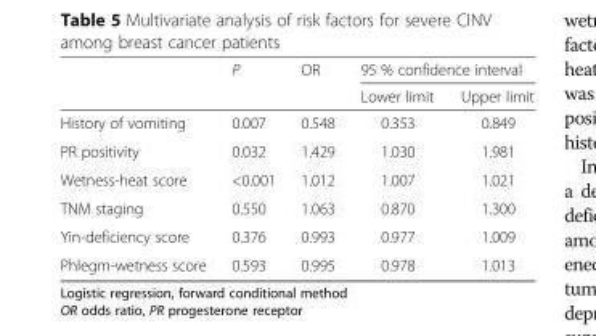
<table><thead><tr><td rowspan="2"></td><td rowspan="2">P</td><td rowspan="2">OR</td><td colspan="2">95 % confidence interval</td></tr><tr><td>Lower limit</td><td>Upper limit</td></tr></thead><tbody><tr><td>History of vomiting</td><td>0.007</td><td>0.548</td><td>0.353</td><td>0.849</td></tr><tr><td>PR positivity</td><td>0.032</td><td>1.429</td><td>1.030</td><td>1.981</td></tr><tr><td>Wetness-heat score</td><td>&lt;0.001</td><td>1.012</td><td>1.007</td><td>1.021</td></tr><tr><td>TNM staging</td><td>0.550</td><td>1.063</td><td>0.870</td><td>1.300</td></tr><tr><td>Yin-deficiency score</td><td>0.376</td><td>0.993</td><td>0.977</td><td>1.009</td></tr><tr><td>Phlegm-wetness score</td><td>0.593</td><td>0.995</td><td>0.978</td><td>1.013</td></tr></tbody></table>